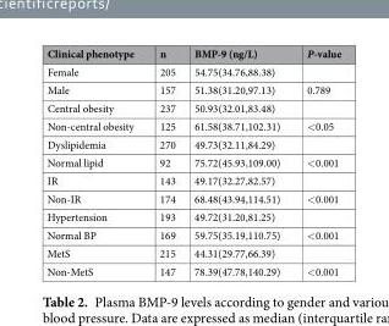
<table><thead><tr><td>Clinical phenotype</td><td>n</td><td>BMP-9 (ng/L)</td><td>P-value</td></tr></thead><tbody><tr><td>Female</td><td>205</td><td>54.75(34.76,88.38)</td><td></td></tr><tr><td>Male</td><td>157</td><td>51.38(31.20,97.13)</td><td>0.789</td></tr><tr><td>Central obesity</td><td>237</td><td>50.93(32.01,83.48)</td><td></td></tr><tr><td>Non-central obesity</td><td>125</td><td>61.58(38.71,102.31)</td><td>&lt;0.05</td></tr><tr><td>Dyslipidemia</td><td>270</td><td>49.73(32.11,84.29)</td><td></td></tr><tr><td>Normal lipid</td><td>92</td><td>75.72(45.93,109.00)</td><td>&lt;0.001</td></tr><tr><td>IR</td><td>143</td><td>49.17(32.27,82.57)</td><td></td></tr><tr><td>Non-IR</td><td>174</td><td>68.48(43.94,114.51)</td><td>&lt;0.001</td></tr><tr><td>Hypertension</td><td>193</td><td>49.72(31.20,81.25)</td><td></td></tr><tr><td>Normal BP</td><td>169</td><td>59.75(35.19,110.75)</td><td>&lt;0.001</td></tr><tr><td>MetS</td><td>215</td><td>44.31(29.77,66.39)</td><td></td></tr><tr><td>Non-MetS</td><td>147</td><td>78.39(47.78,140.29)</td><td>&lt;0.001</td></tr></tbody></table>